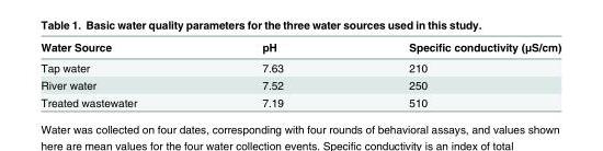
<table><thead><tr><td>Water Source</td><td>pH</td><td>Specific conductivity (μS/cm)</td></tr></thead><tbody><tr><td>Tap water</td><td>7.63</td><td>210</td></tr><tr><td>River water</td><td>7.52</td><td>250</td></tr><tr><td>Treated wastewater</td><td>7.19</td><td>510</td></tr></tbody></table>